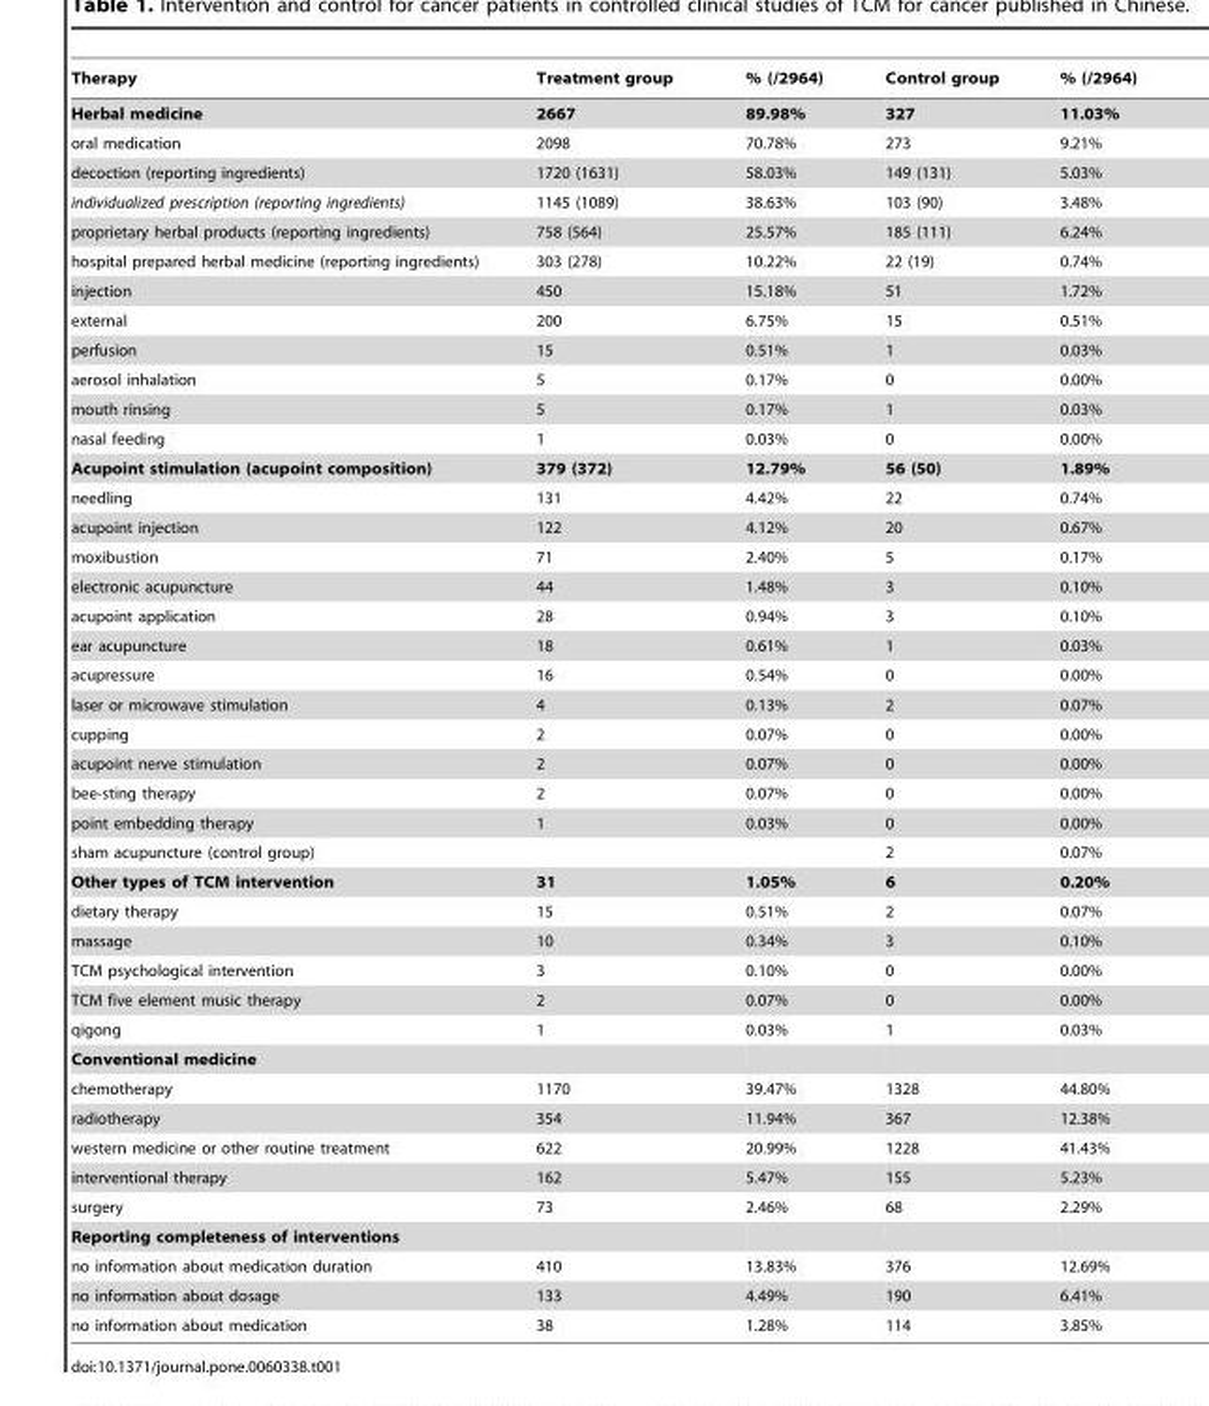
<table><thead><tr><td>Therapy</td><td>Treatment group</td><td>% (/2964)</td><td>Control group</td><td>% (/2964)</td></tr></thead><tbody><tr><td>Herbal medicine</td><td>2667</td><td>89.98%</td><td>327</td><td>11.03%</td></tr><tr><td>oral medication</td><td>2098</td><td>70.78%</td><td>273</td><td>9.21%</td></tr><tr><td>decoction (reporting ingredients)</td><td>1720 (1631)</td><td>58.03%</td><td>149 (131)</td><td>5.03%</td></tr><tr><td>individualized prescription (reporting ingredients)</td><td>1145 (1089)</td><td>38.63%</td><td>103 (90)</td><td>3.48%</td></tr><tr><td>proprietary herbal products (reporting ingredients)</td><td>758 (564)</td><td>25.57%</td><td>185 (111)</td><td>6.24%</td></tr><tr><td>hospital prepared herbal medicine (reporting ingredients)</td><td>303 (278)</td><td>10.22%</td><td>22 (19)</td><td>0.74%</td></tr><tr><td>injection</td><td>450</td><td>15.18%</td><td>51</td><td>1.72%</td></tr><tr><td>external</td><td>200</td><td>6.75%</td><td>15</td><td>0.51%</td></tr><tr><td>perfusion</td><td>15</td><td>0.51%</td><td>1</td><td>0.03%</td></tr><tr><td>aerosol inhalation</td><td>5</td><td>0.17%</td><td>0</td><td>0.00%</td></tr><tr><td>mouth rinsing</td><td>5</td><td>0.17%</td><td>1</td><td>0.03%</td></tr><tr><td>nasal feeding</td><td>1</td><td>0.03%</td><td>0</td><td>0.00%</td></tr><tr><td>Acupoint stimulation (acupoint composition)</td><td>379 (372)</td><td>12.79%</td><td>56 (50)</td><td>1.89%</td></tr><tr><td>needling</td><td>131</td><td>4.42%</td><td>22</td><td>0.74%</td></tr><tr><td>acupoint injection</td><td>122</td><td>4.12%</td><td>20</td><td>0.67%</td></tr><tr><td>moxibustion</td><td>71</td><td>2.40%</td><td>5</td><td>0.17%</td></tr><tr><td>electronic acupuncture</td><td>44</td><td>1.48%</td><td>3</td><td>0.10%</td></tr><tr><td>acupoint application</td><td>28</td><td>0.94%</td><td>3</td><td>0.10%</td></tr><tr><td>ear acupuncture</td><td>18</td><td>0.61%</td><td>1</td><td>0.03%</td></tr><tr><td>acupressure</td><td>16</td><td>0.54%</td><td>0</td><td>0.00%</td></tr><tr><td>laser or microwave stimulation</td><td>4</td><td>0.13%</td><td>2</td><td>0.07%</td></tr><tr><td>cupping</td><td>2</td><td>0.07%</td><td>0</td><td>0.00%</td></tr><tr><td>acupoint nerve stimulation</td><td>2</td><td>0.07%</td><td>0</td><td>0.00%</td></tr><tr><td>bee-sting therapy</td><td>2</td><td>0.07%</td><td>0</td><td>0.00%</td></tr><tr><td>point embedding therapy</td><td>1</td><td>0.03%</td><td>0</td><td>0.00%</td></tr><tr><td>sham acupuncture (control group)</td><td></td><td></td><td>2</td><td>0.07%</td></tr><tr><td>Other types of TCM intervention</td><td>31</td><td>1.05%</td><td>6</td><td>0.20%</td></tr><tr><td>dietary therapy</td><td>15</td><td>0.51%</td><td>2</td><td>0.07%</td></tr><tr><td>massage</td><td>10</td><td>0.34%</td><td>3</td><td>0.10%</td></tr><tr><td>TCM psychological intervention</td><td>3</td><td>0.10%</td><td>0</td><td>0.00%</td></tr><tr><td>TCM five element music therapy</td><td>2</td><td>0.07%</td><td>0</td><td>0.00%</td></tr><tr><td>qigong</td><td>1</td><td>0.03%</td><td>1</td><td>0.03%</td></tr><tr><td colspan="5">Conventional medicine</td></tr><tr><td>chemotherapy</td><td>1170</td><td>39.47%</td><td>1328</td><td>44.80%</td></tr><tr><td>radiotherapy</td><td>354</td><td>11.94%</td><td>367</td><td>12.38%</td></tr><tr><td>western medicine or other routine treatment</td><td>622</td><td>20.99%</td><td>1228</td><td>41.43%</td></tr><tr><td>interventional therapy</td><td>162</td><td>5.47%</td><td>155</td><td>5.23%</td></tr><tr><td>surgery</td><td>73</td><td>2.46%</td><td>68</td><td>2.29%</td></tr><tr><td colspan="5">Reporting completeness of interventions</td></tr><tr><td>no information about medication duration</td><td>410</td><td>13.83%</td><td>376</td><td>12.69%</td></tr><tr><td>no information about dosage</td><td>133</td><td>4.49%</td><td>190</td><td>6.41%</td></tr><tr><td>no information about medication</td><td>38</td><td>1.28%</td><td>114</td><td>3.85%</td></tr></tbody></table>